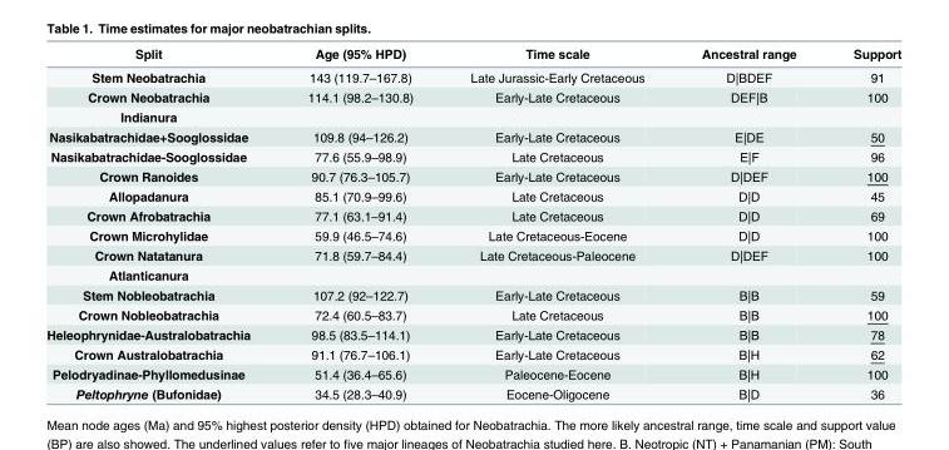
<table><thead><tr><td>Split</td><td>Age (95% HPD)</td><td>Time scale</td><td>Ancestral range</td><td>Support</td></tr></thead><tbody><tr><td>Stem Neobatrachia</td><td>143 (119.7–167.8)</td><td>Late Jurassic-Early Cretaceous</td><td>D|BDEF</td><td>91</td></tr><tr><td>Crown Neobatrachia</td><td>114.1 (98.2–130.8)</td><td>Early-Late Cretaceous</td><td>DEF|B</td><td>100</td></tr><tr><td colspan="5">Indianura</td></tr><tr><td>Nasikabatrachidae+Sooglossidae</td><td>109.8 (94–126.2)</td><td>Early-Late Cretaceous</td><td>E|DE</td><td>50</td></tr><tr><td>Nasikabatrachidae-Sooglossidae</td><td>77.6 (55.9–98.9)</td><td>Late Cretaceous</td><td>E|F</td><td>96</td></tr><tr><td>Crown Ranoides</td><td>90.7 (76.3–105.7)</td><td>Early-Late Cretaceous</td><td>D|DEF</td><td>100</td></tr><tr><td>Allopadanura</td><td>85.1 (70.9–99.6)</td><td>Late Cretaceous</td><td>D|D</td><td>45</td></tr><tr><td>Crown Afrobatrachia</td><td>77.1 (63.1–91.4)</td><td>Late Cretaceous</td><td>D|D</td><td>69</td></tr><tr><td>Crown Microhylidae</td><td>59.9 (46.5–74.6)</td><td>Late Cretaceous-Eocene</td><td>D|D</td><td>100</td></tr><tr><td>Crown Natatanura</td><td>71.8 (59.7–84.4)</td><td>Late Cretaceous-Paleocene</td><td>D|DEF</td><td>100</td></tr><tr><td colspan="5">Atlanticanura</td></tr><tr><td>Stem Nobleobatrachia</td><td>107.2 (92–122.7)</td><td>Early-Late Cretaceous</td><td>B|B</td><td>59</td></tr><tr><td>Crown Nobleobatrachia</td><td>72.4 (60.5–83.7)</td><td>Late Cretaceous</td><td>B|B</td><td>100</td></tr><tr><td>Heleophrynidae-Australobatrachia</td><td>98.5 (83.5–114.1)</td><td>Early-Late Cretaceous</td><td>B|B</td><td>78</td></tr><tr><td>Crown Australobatrachia</td><td>91.1 (76.7–106.1)</td><td>Early-Late Cretaceous</td><td>B|H</td><td>62</td></tr><tr><td>Pelodryadinae-Phyllomedusinae</td><td>51.4 (36.4–65.6)</td><td>Paleocene-Eocene</td><td>B|H</td><td>100</td></tr><tr><td>Peltophryne (Bufonidae)</td><td>34.5 (28.3–40.9)</td><td>Eocene-Oligocene</td><td>B|D</td><td>36</td></tr></tbody></table>